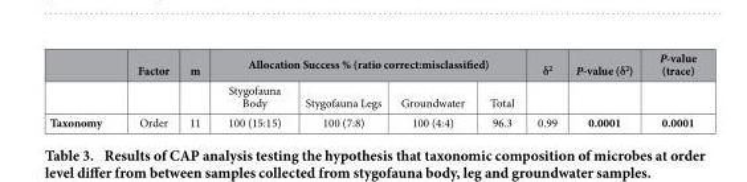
<table><thead><tr><td rowspan="2"></td><td rowspan="2">Factor</td><td rowspan="2">m</td><td colspan="4">Allocation Success % (ratio correct:misclassified)</td><td rowspan="2">δ<sup>2</sup></td><td rowspan="2">P-value (δ<sup>2</sup>)</td><td rowspan="2">P-value (trace)</td></tr><tr><td>Stygofauna Body</td><td>Stygofauna Legs</td><td>Groundwater</td><td>Total</td></tr></thead><tbody><tr><td>Taxonomy</td><td>Order</td><td>11</td><td>100 (15:15)</td><td>100 (7:8)</td><td>100 (4:4)</td><td>96.3</td><td>0.99</td><td>0.0001</td><td>0.0001</td></tr></tbody></table>